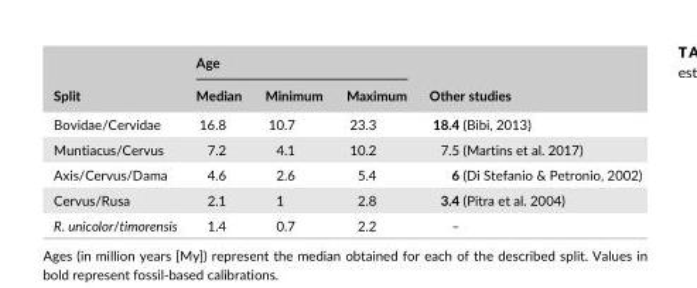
<table><thead><tr><td rowspan="2">Split</td><td colspan="3">Age</td><td rowspan="2">Other studies</td></tr><tr><td>Median</td><td>Minimum</td><td>Maximum</td></tr></thead><tbody><tr><td>Bovidae/Cervidae</td><td>16.8</td><td>10.7</td><td>23.3</td><td>18.4 (Bibi, 2013)</td></tr><tr><td>Muntiacus/Cervus</td><td>7.2</td><td>4.1</td><td>10.2</td><td>7.5 (Martins et al. 2017)</td></tr><tr><td>Axis/Cervus/Dama</td><td>4.6</td><td>2.6</td><td>5.4</td><td>6 (Di Stefanio &amp; Petronio, 2002)</td></tr><tr><td>Cervus/Rusa</td><td>2.1</td><td>1</td><td>2.8</td><td>3.4 (Pitra et al. 2004)</td></tr><tr><td>R. unicolor/timorensis</td><td>1.4</td><td>0.7</td><td>2.2</td><td>–</td></tr></tbody></table>